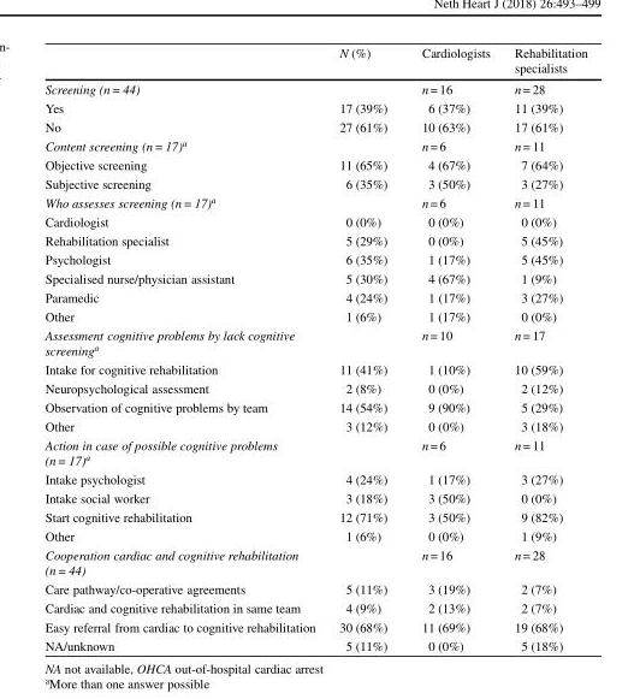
<table><thead><tr><td></td><td>N (%)</td><td>Cardiologists</td><td>Rehabilitation specialists</td></tr></thead><tbody><tr><td>Screening (n= 44)</td><td></td><td>n= 16</td><td>n= 28</td></tr><tr><td>Yes</td><td>17 (39%)</td><td>6 (37%)</td><td>11 (39%)</td></tr><tr><td>No</td><td>27 (61%)</td><td>10 (63%)</td><td>17 (61%)</td></tr><tr><td>Content screening (n= 17)<sup>a</sup></td><td></td><td>n= 6</td><td>n= 11</td></tr><tr><td>Objective screening</td><td>11 (65%)</td><td>4 (67%)</td><td>7 (64%)</td></tr><tr><td>Subjective screening</td><td>6 (35%)</td><td>3 (50%)</td><td>3 (27%)</td></tr><tr><td>Who assesses screening (n= 17)<sup>a</sup></td><td></td><td>n= 6</td><td>n= 11</td></tr><tr><td>Cardiologist</td><td>0 (0%)</td><td>0 (0%)</td><td>0 (0%)</td></tr><tr><td>Rehabilitation specialist</td><td>5 (29%)</td><td>0 (0%)</td><td>5 (45%)</td></tr><tr><td>Psychologist</td><td>6 (35%)</td><td>1 (17%)</td><td>5 (45%)</td></tr><tr><td>Specialised nurse/physician assistant</td><td>5 (30%)</td><td>4 (67%)</td><td>1 (9%)</td></tr><tr><td>Paramedic</td><td>4 (24%)</td><td>1 (17%)</td><td>3 (27%)</td></tr><tr><td>Other</td><td>1 (6%)</td><td>1 (17%)</td><td>0 (0%)</td></tr><tr><td>Assessment cognitive problems by lack cognitive screening<sup>a</sup></td><td></td><td>n= 10</td><td>n= 17</td></tr><tr><td>Intake for cognitive rehabilitation</td><td>11 (41%)</td><td>1 (10%)</td><td>10 (59%)</td></tr><tr><td>Neuropsychological assessment</td><td>2 (8%)</td><td>0 (0%)</td><td>2 (12%)</td></tr><tr><td>Observation of cognitive problems by team</td><td>14 (54%)</td><td>9 (90%)</td><td>5 (29%)</td></tr><tr><td>Other</td><td>3 (12%)</td><td>0 (0%)</td><td>3 (18%)</td></tr><tr><td>Action in case of possible cognitive problems (n= 17)<sup>a</sup></td><td></td><td>n= 6</td><td>n= 11</td></tr><tr><td>Intake psychologist</td><td>4 (24%)</td><td>1 (17%)</td><td>3 (27%)</td></tr><tr><td>Intake social worker</td><td>3 (18%)</td><td>3 (50%)</td><td>0 (0%)</td></tr><tr><td>Start cognitive rehabilitation</td><td>12 (71%)</td><td>3 (50%)</td><td>9 (82%)</td></tr><tr><td>Other</td><td>1 (6%)</td><td>0 (0%)</td><td>1 (9%)</td></tr><tr><td>Cooperation cardiac and cognitive rehabilitation (n= 44)</td><td></td><td>n= 16</td><td>n= 28</td></tr><tr><td>Care pathway/co-operative agreements</td><td>5 (11%)</td><td>3 (19%)</td><td>2 (7%)</td></tr><tr><td>Cardiac and cognitive rehabilitation in same team</td><td>4 (9%)</td><td>2 (13%)</td><td>2 (7%)</td></tr><tr><td>Easy referral from cardiac to cognitive rehabilitation</td><td>30 (68%)</td><td>11 (69%)</td><td>19 (68%)</td></tr><tr><td>NA/unknown</td><td>5 (11%)</td><td>0 (0%)</td><td>5 (18%)</td></tr></tbody></table>